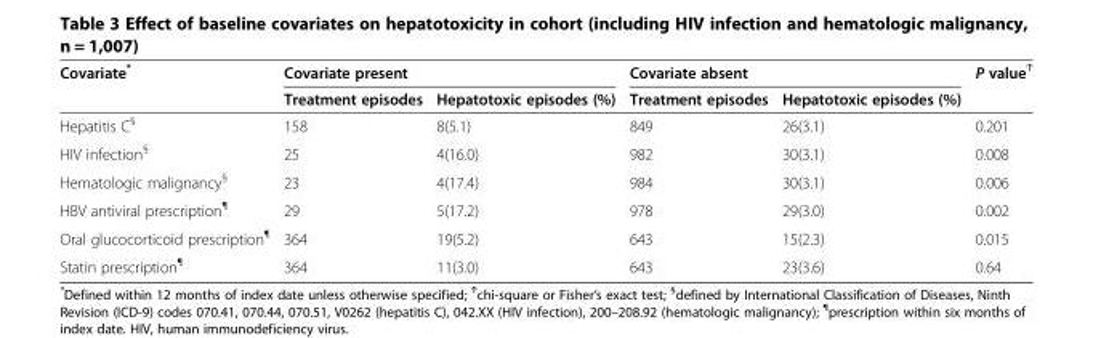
<table><thead><tr><td rowspan="2">Covariate*</td><td colspan="2">Covariate present</td><td colspan="2">Covariate absent</td><td rowspan="2">P value<sup>Ϯ</sup></td></tr><tr><td>Treatment episodes</td><td>Hepatotoxic episodes (%)</td><td>Treatment episodes</td><td>Hepatotoxic episodes (%)</td></tr></thead><tbody><tr><td>Hepatitis C<sup>§</sup></td><td>158</td><td>8(5.1)</td><td>849</td><td>26(3.1)</td><td>0.201</td></tr><tr><td>HIV infection<sup>§</sup></td><td>25</td><td>4(16.0)</td><td>982</td><td>30(3.1)</td><td>0.008</td></tr><tr><td>Hematologic malignancy<sup>§</sup></td><td>23</td><td>4(17.4)</td><td>984</td><td>30(3.1)</td><td>0.006</td></tr><tr><td>HBV antiviral prescription<sup>¶</sup></td><td>29</td><td>5(17.2)</td><td>978</td><td>29(3.0)</td><td>0.002</td></tr><tr><td>Oral glucocorticoid prescription<sup>¶</sup></td><td>364</td><td>19(5.2)</td><td>643</td><td>15(2.3)</td><td>0.015</td></tr><tr><td>Statin prescription<sup>¶</sup></td><td>364</td><td>11(3.0)</td><td>643</td><td>23(3.6)</td><td>0.64</td></tr></tbody></table>